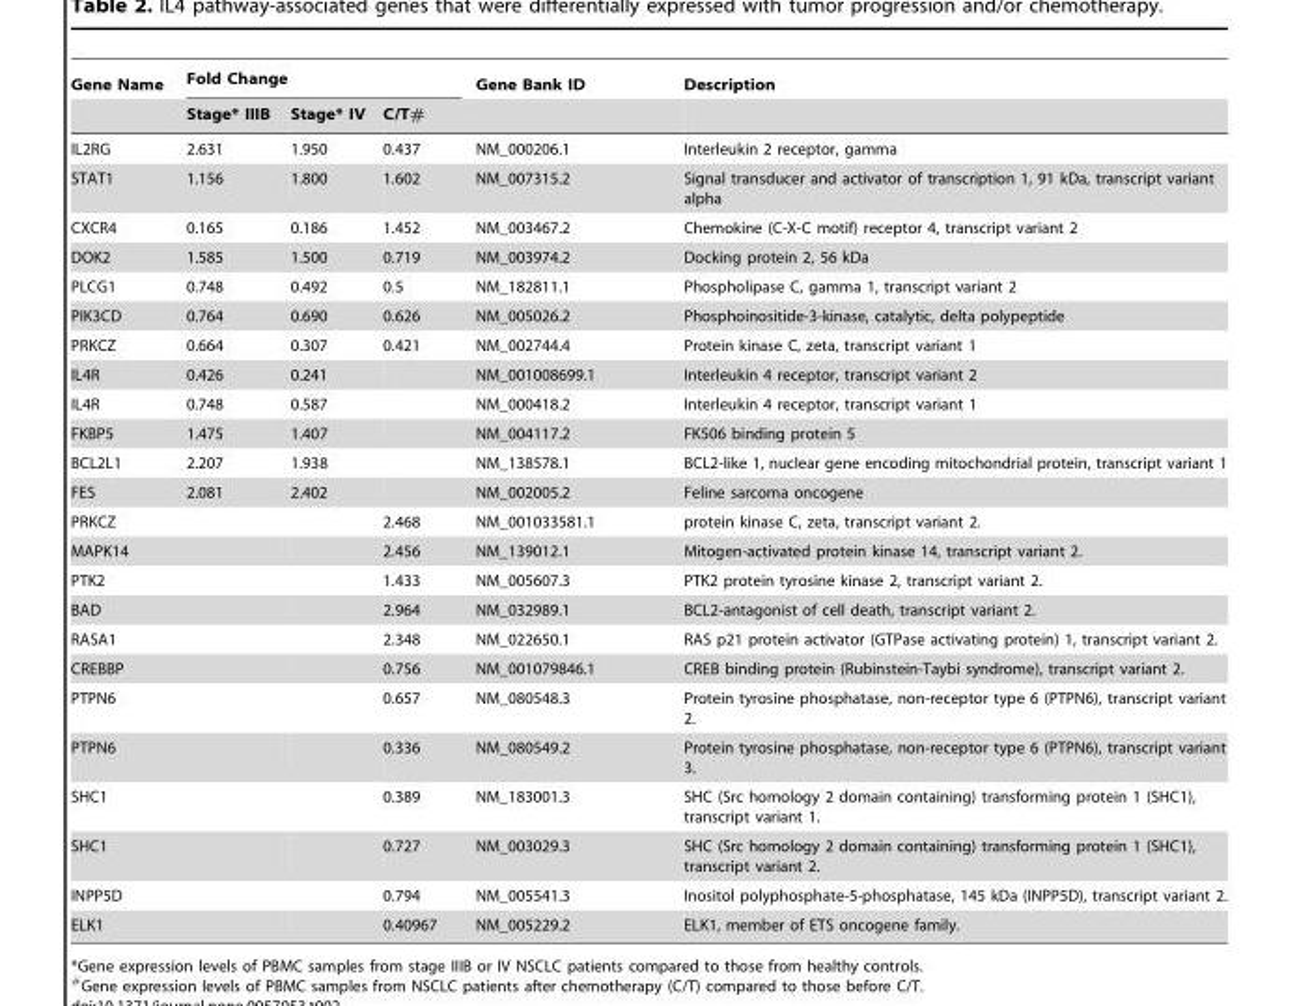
<table><thead><tr><td rowspan="2">Gene Name</td><td colspan="3">Fold Change</td><td rowspan="2">Gene Bank ID</td><td rowspan="2">Description</td></tr><tr><td>Stage* IIIB</td><td>Stage* IV</td><td>C/T#</td></tr></thead><tbody><tr><td>IL2RG</td><td>2.631</td><td>1.950</td><td>0.437</td><td>NM_000206.1</td><td>Interleukin 2 receptor, gamma</td></tr><tr><td>STAT1</td><td>1.156</td><td>1.800</td><td>1.602</td><td>NM_007315.2</td><td>Signal transducer and activator of transcription 1, 91 kDa, transcript variant alpha</td></tr><tr><td>CXCR4</td><td>0.165</td><td>0.186</td><td>1.452</td><td>NM_003467.2</td><td>Chemokine (C-X-C motif) receptor 4, transcript variant 2</td></tr><tr><td>DOK2</td><td>1.585</td><td>1.500</td><td>0.719</td><td>NM_003974.2</td><td>Docking protein 2, 56 kDa</td></tr><tr><td>PLCG1</td><td>0.748</td><td>0.492</td><td>0.5</td><td>NM_182811.1</td><td>Phospholipase C, gamma 1, transcript variant 2</td></tr><tr><td>PIK3CD</td><td>0.764</td><td>0.690</td><td>0.626</td><td>NM_005026.2</td><td>Phosphoinositide-3-kinase, catalytic, delta polypeptide</td></tr><tr><td>PRKCZ</td><td>0.664</td><td>0.307</td><td>0.421</td><td>NM_002744.4</td><td>Protein kinase C, zeta, transcript variant 1</td></tr><tr><td>IL4R</td><td>0.426</td><td>0.241</td><td></td><td>NM_001008699.1</td><td>Interleukin 4 receptor, transcript variant 2</td></tr><tr><td>IL4R</td><td>0.748</td><td>0.587</td><td></td><td>NM_000418.2</td><td>Interleukin 4 receptor, transcript variant 1</td></tr><tr><td>FKBP5</td><td>1.475</td><td>1.407</td><td></td><td>NM_004117.2</td><td>FK506 binding protein 5</td></tr><tr><td>BCL2L1</td><td>2.207</td><td>1.938</td><td></td><td>NM_138578.1</td><td>BCL2-like 1, nuclear gene encoding mitochondrial protein, transcript variant 1</td></tr><tr><td>FES</td><td>2.081</td><td>2.402</td><td></td><td>NM_002005.2</td><td>Feline sarcoma oncogene</td></tr><tr><td>PRKCZ</td><td></td><td></td><td>2.468</td><td>NM_001033581.1</td><td>protein kinase C, zeta, transcript variant 2.</td></tr><tr><td>MAPK14</td><td></td><td></td><td>2.456</td><td>NM_139012.1</td><td>Mitogen-activated protein kinase 14, transcript variant 2.</td></tr><tr><td>PTK2</td><td></td><td></td><td>1.433</td><td>NM_005607.3</td><td>PTK2 protein tyrosine kinase 2, transcript variant 2.</td></tr><tr><td>BAD</td><td></td><td></td><td>2.964</td><td>NM_032989.1</td><td>BCL2-antagonist of cell death, transcript variant 2.</td></tr><tr><td>RASA1</td><td></td><td></td><td>2.348</td><td>NM_022650.1</td><td>RAS p21 protein activator (GTPase activating protein) 1, transcript variant 2.</td></tr><tr><td>CREBBP</td><td></td><td></td><td>0.756</td><td>NM_001079846.1</td><td>CREB binding protein (Rubinstein-Taybi syndrome), transcript variant 2.</td></tr><tr><td>PTPN6</td><td></td><td></td><td>0.657</td><td>NM_080548.3</td><td>Protein tyrosine phosphatase, non-receptor type 6 (PTPN6), transcript variant 2.</td></tr><tr><td>PTPN6</td><td></td><td></td><td>0.336</td><td>NM_080549.2</td><td>Protein tyrosine phosphatase, non-receptor type 6 (PTPN6), transcript variant 3.</td></tr><tr><td>SHC1</td><td></td><td></td><td>0.389</td><td>NM_183001.3</td><td>SHC (Src homology 2 domain containing) transforming protein 1 (SHC1), transcript variant 1.</td></tr><tr><td>SHC1</td><td></td><td></td><td>0.727</td><td>NM_003029.3</td><td>SHC (Src homology 2 domain containing) transforming protein 1 (SHC1), transcript variant 2.</td></tr><tr><td>INPP5D</td><td></td><td></td><td>0.794</td><td>NM_005541.3</td><td>Inositol polyphosphate-5-phosphatase, 145 kDa (INPP5D), transcript variant 2.</td></tr><tr><td>ELK1</td><td></td><td></td><td>0.40967</td><td>NM_005229.2</td><td>ELK1, member of ETS oncogene family.</td></tr></tbody></table>